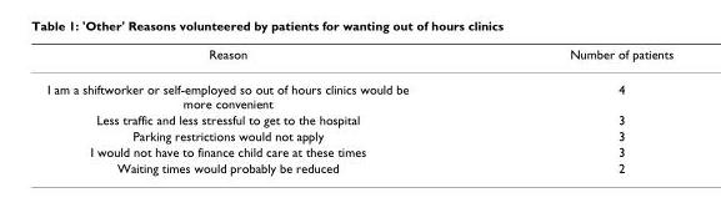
<table><thead><tr><td>Reason</td><td>Number of patients</td></tr></thead><tbody><tr><td>I am a shiftworker or self-employed so out of hours clinics would be more convenient</td><td>4</td></tr><tr><td>Less traffic and less stressful to get to the hospital</td><td>3</td></tr><tr><td>Parking restrictions would not apply</td><td>3</td></tr><tr><td>I would not have to finance child care at these times</td><td>3</td></tr><tr><td>Waiting times would probably be reduced</td><td>2</td></tr></tbody></table>